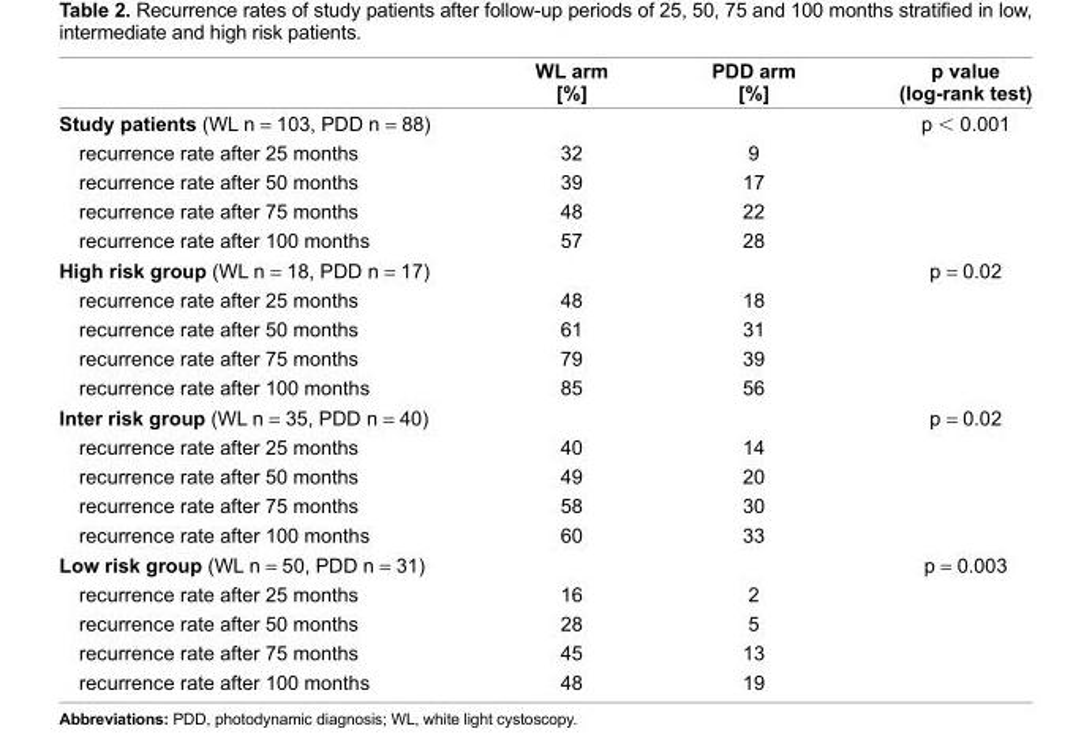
<table><thead><tr><td></td><td>WL arm [%]</td><td>PDD arm [%]</td><td>p value (log-rank test)</td></tr></thead><tbody><tr><td>Study patients (WL n = 103, PDD n = 88)</td><td></td><td></td><td>p &lt; 0.001</td></tr><tr><td>recurrence rate after 25 months</td><td>32</td><td>9</td><td></td></tr><tr><td>recurrence rate after 50 months</td><td>39</td><td>17</td><td></td></tr><tr><td>recurrence rate after 75 months</td><td>48</td><td>22</td><td></td></tr><tr><td>recurrence rate after 100 months</td><td>57</td><td>28</td><td></td></tr><tr><td>High risk group (WL n = 18, PDD n = 17)</td><td></td><td></td><td>p = 0.02</td></tr><tr><td>recurrence rate after 25 months</td><td>48</td><td>18</td><td></td></tr><tr><td>recurrence rate after 50 months</td><td>61</td><td>31</td><td></td></tr><tr><td>recurrence rate after 75 months</td><td>79</td><td>39</td><td></td></tr><tr><td>recurrence rate after 100 months</td><td>85</td><td>56</td><td></td></tr><tr><td>Inter risk group (WL n = 35, PDD n = 40)</td><td></td><td></td><td>p = 0.02</td></tr><tr><td>recurrence rate after 25 months</td><td>40</td><td>14</td><td></td></tr><tr><td>recurrence rate after 50 months</td><td>49</td><td>20</td><td></td></tr><tr><td>recurrence rate after 75 months</td><td>58</td><td>30</td><td></td></tr><tr><td>recurrence rate after 100 months</td><td>60</td><td>33</td><td></td></tr><tr><td>Low risk group (WL n = 50, PDD n = 31)</td><td></td><td></td><td>p = 0.003</td></tr><tr><td>recurrence rate after 25 months</td><td>16</td><td>2</td><td></td></tr><tr><td>recurrence rate after 50 months</td><td>28</td><td>5</td><td></td></tr><tr><td>recurrence rate after 75 months</td><td>45</td><td>13</td><td></td></tr><tr><td>recurrence rate after 100 months</td><td>48</td><td>19</td><td></td></tr></tbody></table>